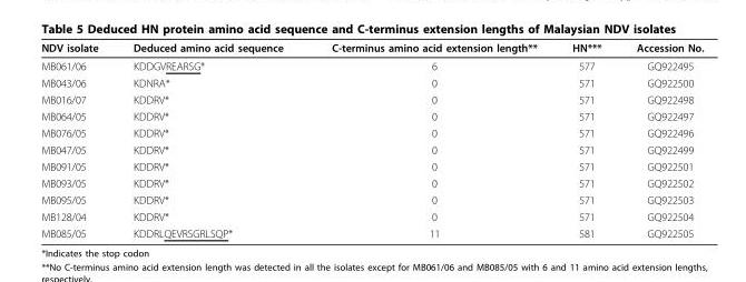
<table><thead><tr><td>NDV isolate</td><td>Deduced amino acid sequence</td><td>C-terminus amino acid extension length**</td><td>HN***</td><td>Accession No.</td></tr></thead><tbody><tr><td>MB061/06</td><td>KDDGVREARSG*</td><td>6</td><td>577</td><td>GQ922495</td></tr><tr><td>MB043/06</td><td>KDNRA*</td><td>0</td><td>571</td><td>GQ922500</td></tr><tr><td>MB016/07</td><td>KDDRV*</td><td>0</td><td>571</td><td>GQ922498</td></tr><tr><td>MB064/05</td><td>KDDRV*</td><td>0</td><td>571</td><td>GQ922497</td></tr><tr><td>MB076/05</td><td>KDDRV*</td><td>0</td><td>571</td><td>GQ922496</td></tr><tr><td>MB047/05</td><td>KDDRV*</td><td>0</td><td>571</td><td>GQ922499</td></tr><tr><td>MB091/05</td><td>KDDRV*</td><td>0</td><td>571</td><td>GQ922501</td></tr><tr><td>MB093/05</td><td>KDDRV*</td><td>0</td><td>571</td><td>GQ922502</td></tr><tr><td>MB095/05</td><td>KDDRV*</td><td>0</td><td>571</td><td>GQ922503</td></tr><tr><td>MB128/04</td><td>KDDRV*</td><td>0</td><td>571</td><td>GQ922504</td></tr><tr><td>MB085/05</td><td>KDDRLQEVRSGRLSQP*</td><td>11</td><td>581</td><td>GQ922505</td></tr></tbody></table>